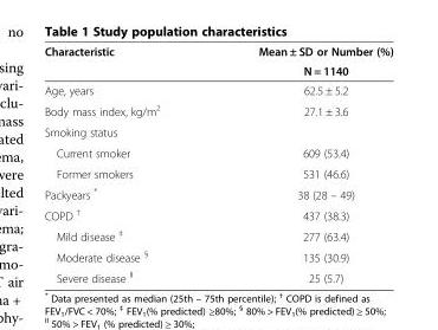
<table><thead><tr><td>Characteristic</td><td>Mean ± SD or Number (%) N = 1140</td></tr></thead><tbody><tr><td>Age, years</td><td>62.5 ± 5.2</td></tr><tr><td>Body mass index, kg/m<sup>2</sup></td><td>27.1 ± 3.6</td></tr><tr><td colspan="2">Smoking status</td></tr><tr><td>Current smoker</td><td>609 (53.4)</td></tr><tr><td>Former smokers</td><td>531 (46.6)</td></tr><tr><td>Packyears *</td><td>38 (28 – 49)</td></tr><tr><td>COPD <sup>†</sup></td><td>437 (38.3)</td></tr><tr><td>Mild disease <sup>‡</sup></td><td>277 (63.4)</td></tr><tr><td>Moderate disease <sup>§</sup></td><td>135 (30.9)</td></tr><tr><td>Severe disease <sup>ll</sup></td><td>25 (5.7)</td></tr></tbody></table>